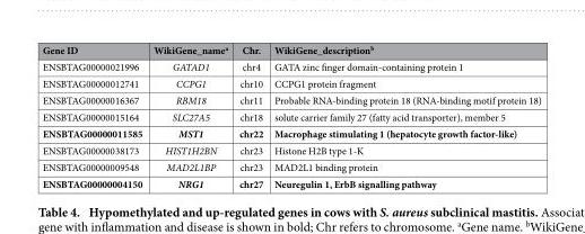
<table><thead><tr><td>Gene ID</td><td>WikiGene_name<sup>a</sup></td><td>Chr.</td><td>WikiGene_description<sup>b</sup></td></tr></thead><tbody><tr><td>ENSBTAG00000021996</td><td>GATAD1</td><td>chr4</td><td>GATA zinc finger domain-containing protein 1</td></tr><tr><td>ENSBTAG00000012741</td><td>CCPG1</td><td>chr10</td><td>CCPG1 protein fragment</td></tr><tr><td>ENSBTAG00000016367</td><td>RBM18</td><td>chr11</td><td>Probable RNA-binding protein 18 (RNA-binding motif protein 18)</td></tr><tr><td>ENSBTAG00000015164</td><td>SLC27A5</td><td>chr18</td><td>solute carrier family 27 (fatty acid transporter), member 5</td></tr><tr><td>ENSBTAG00000011585</td><td>MST1</td><td>chr22</td><td>Macrophage stimulating 1 (hepatocyte growth factor-like)</td></tr><tr><td>ENSBTAG00000038173</td><td>HIST1H2BN</td><td>chr23</td><td>Histone H2B type 1-K</td></tr><tr><td>ENSBTAG00000009548</td><td>MAD2L1BP</td><td>chr23</td><td>MAD2L1 binding protein</td></tr><tr><td>ENSBTAG00000004150</td><td>NRG1</td><td>chr27</td><td>Neuregulin 1, ErbB signalling pathway</td></tr></tbody></table>